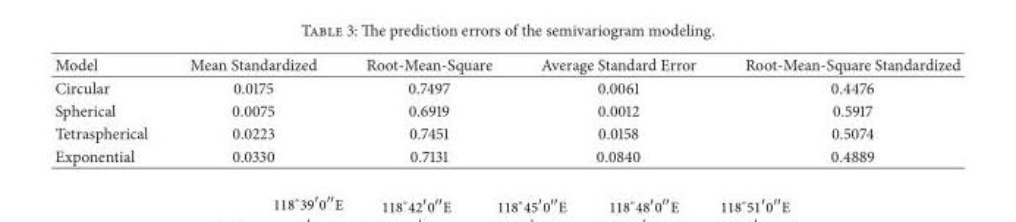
<table><thead><tr><td>Model</td><td>Mean Standardized</td><td>Root-Mean-Square</td><td>Average Standard Error</td><td>Root-Mean-Square Standardized</td></tr></thead><tbody><tr><td>Circular</td><td>0.0175</td><td>0.7497</td><td>0.0061</td><td>0.4476</td></tr><tr><td>Spherical</td><td>0.0075</td><td>0.6919</td><td>0.0012</td><td>0.5917</td></tr><tr><td>Tetraspherical</td><td>0.0223</td><td>0.7451</td><td>0.0158</td><td>0.5074</td></tr><tr><td>Exponential</td><td>0.0330</td><td>0.7131</td><td>0.0840</td><td>0.4889</td></tr></tbody></table>